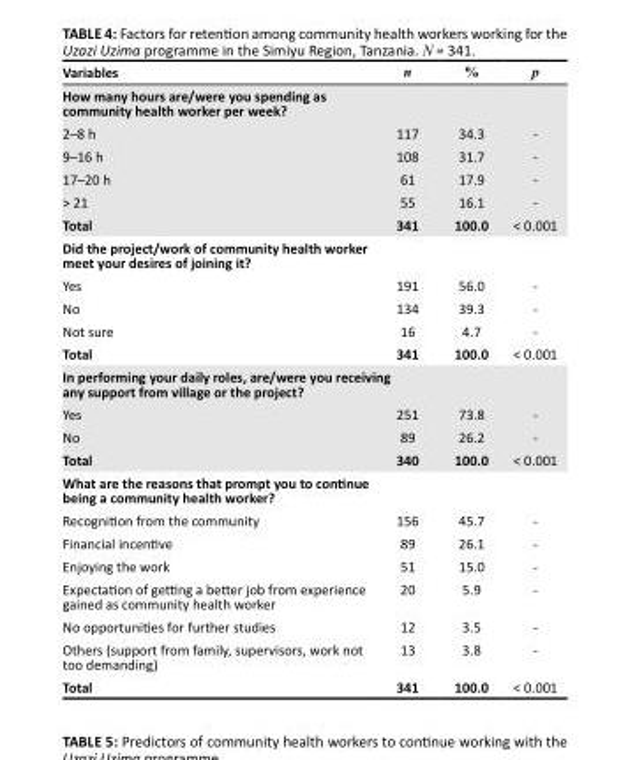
<table><thead><tr><td>Variables</td><td>n</td><td>%</td><td>p</td></tr></thead><tbody><tr><td colspan="4">How many hours are/were you spending as community health worker per week?</td></tr><tr><td>2–8 h</td><td>117</td><td>34.3</td><td>-</td></tr><tr><td>9–16 h</td><td>108</td><td>31.7</td><td>-</td></tr><tr><td>17–20 h</td><td>61</td><td>17.9</td><td>-</td></tr><tr><td>&gt; 21</td><td>55</td><td>16.1</td><td>-</td></tr><tr><td>Total</td><td>341</td><td>100.0</td><td>&lt; 0.001</td></tr><tr><td colspan="4">Did the project/work of community health worker meet your desires of joining it?</td></tr><tr><td>Yes</td><td>191</td><td>56.0</td><td>-</td></tr><tr><td>No</td><td>134</td><td>39.3</td><td>-</td></tr><tr><td>Not sure</td><td>16</td><td>4.7</td><td>-</td></tr><tr><td>Total</td><td>341</td><td>100.0</td><td>&lt; 0.001</td></tr><tr><td colspan="4">In performing your daily roles, are/were you receiving any support from village or the project?</td></tr><tr><td>Yes</td><td>251</td><td>73.8</td><td>-</td></tr><tr><td>No</td><td>89</td><td>26.2</td><td>-</td></tr><tr><td>Total</td><td>340</td><td>100.0</td><td>&lt; 0.001</td></tr><tr><td colspan="4">What are the reasons that prompt you to continue being a community health worker?</td></tr><tr><td>Recognition from the community</td><td>156</td><td>45.7</td><td>-</td></tr><tr><td>Financial incentive</td><td>89</td><td>26.1</td><td>-</td></tr><tr><td>Enjoying the work</td><td>51</td><td>15.0</td><td>-</td></tr><tr><td>Expectation of getting a better job from experience gained as community health worker</td><td>20</td><td>5.9</td><td>-</td></tr><tr><td>No opportunities for further studies</td><td>12</td><td>3.5</td><td>-</td></tr><tr><td>Others (support from family, supervisors, work not too demanding)</td><td>13</td><td>3.8</td><td>-</td></tr><tr><td>Total</td><td>341</td><td>100.0</td><td>&lt; 0.001</td></tr></tbody></table>